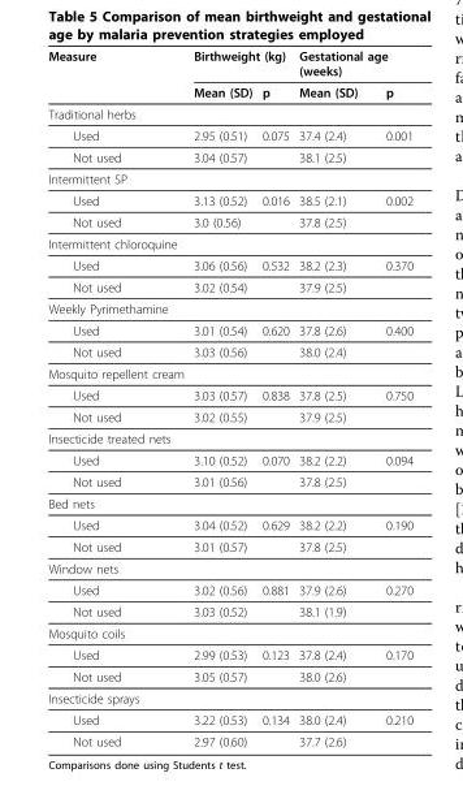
<table><thead><tr><td rowspan="2">Measure</td><td colspan="2">Birthweight (kg)</td><td colspan="2">Gestational age (weeks)</td></tr><tr><td>Mean (SD)</td><td>p</td><td>Mean (SD)</td><td>p</td></tr></thead><tbody><tr><td colspan="5">Traditional herbs</td></tr><tr><td>Used</td><td>2.95 (0.51)</td><td>0.075</td><td>37.4 (2.4)</td><td>0.001</td></tr><tr><td>Not used</td><td>3.04 (0.57)</td><td></td><td>38.1 (2.5)</td><td></td></tr><tr><td colspan="5">Intermittent SP</td></tr><tr><td>Used</td><td>3.13 (0.52)</td><td>0.016</td><td>38.5 (2.1)</td><td>0.002</td></tr><tr><td>Not used</td><td>3.0 (0.56)</td><td></td><td>37.8 (2.5)</td><td></td></tr><tr><td colspan="5">Intermittent chloroquine</td></tr><tr><td>Used</td><td>3.06 (0.56)</td><td>0.532</td><td>38.2 (2.3)</td><td>0.370</td></tr><tr><td>Not used</td><td>3.02 (0.54)</td><td></td><td>37.9 (2.5)</td><td></td></tr><tr><td colspan="5">Weekly Pyrimethamine</td></tr><tr><td>Used</td><td>3.01 (0.54)</td><td>0.620</td><td>37.8 (2.6)</td><td>0.400</td></tr><tr><td>Not used</td><td>3.03 (0.56)</td><td></td><td>38.0 (2.4)</td><td></td></tr><tr><td colspan="5">Mosquito repellent cream</td></tr><tr><td>Used</td><td>3.03 (0.57)</td><td>0.838</td><td>37.8 (2.5)</td><td>0.750</td></tr><tr><td>Not used</td><td>3.02 (0.55)</td><td></td><td>37.9 (2.5)</td><td></td></tr><tr><td colspan="5">Insecticide treated nets</td></tr><tr><td>Used</td><td>3.10 (0.52)</td><td>0.070</td><td>38.2 (2.2)</td><td>0.094</td></tr><tr><td>Not used</td><td>3.01 (0.56)</td><td></td><td>37.8 (2.5)</td><td></td></tr><tr><td colspan="5">Bed nets</td></tr><tr><td>Used</td><td>3.04 (0.52)</td><td>0.629</td><td>38.2 (2.2)</td><td>0.190</td></tr><tr><td>Not used</td><td>3.01 (0.57)</td><td></td><td>37.8 (2.5)</td><td></td></tr><tr><td colspan="5">Window nets</td></tr><tr><td>Used</td><td>3.02 (0.56)</td><td>0.881</td><td>37.9 (2.6)</td><td>0.270</td></tr><tr><td>Not used</td><td>3.03 (0.52)</td><td></td><td>38.1 (1.9)</td><td></td></tr><tr><td colspan="5">Mosquito coils</td></tr><tr><td>Used</td><td>2.99 (0.53)</td><td>0.123</td><td>37.8 (2.4)</td><td>0.170</td></tr><tr><td>Not used</td><td>3.05 (0.57)</td><td></td><td>38.0 (2.6)</td><td></td></tr><tr><td colspan="5">Insecticide sprays</td></tr><tr><td>Used</td><td>3.22 (0.53)</td><td>0.134</td><td>38.0 (2.4)</td><td>0.210</td></tr><tr><td>Not used</td><td>2.97 (0.60)</td><td></td><td>37.7 (2.6)</td><td></td></tr></tbody></table>